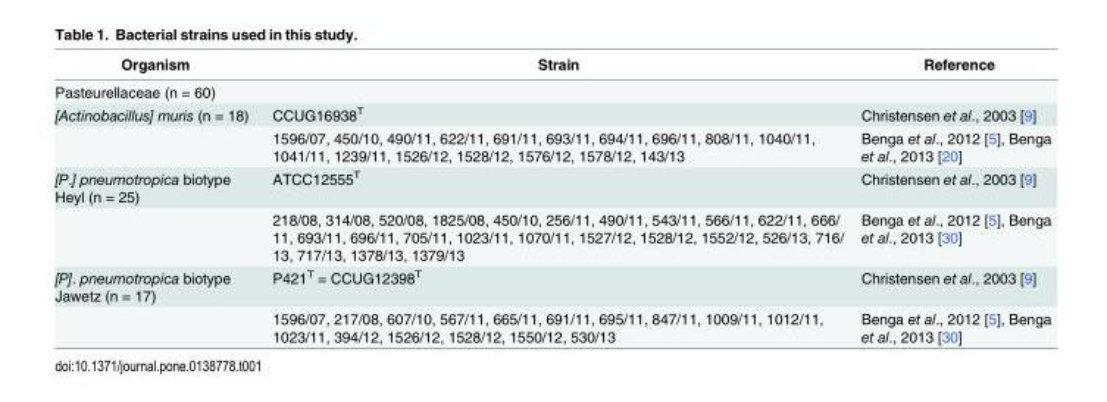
<table><thead><tr><td>Organism</td><td>Strain</td><td>Reference</td></tr></thead><tbody><tr><td colspan="3">Pasteurellaceae (n = 60)</td></tr><tr><td rowspan="2">[Actinobacillus] muris (n = 18)</td><td>CCUG16938<sup>T</sup></td><td>Christensen et al., 2003 [9]</td></tr><tr><td>1596/07, 450/10, 490/11, 622/11, 691/11, 693/11, 694/11, 696/11, 808/11, 1040/11, 1041/11, 1239/11, 1526/12, 1528/12, 1576/12, 1578/12, 143/13</td><td>Benga et al., 2012 [5], Benga et al., 2013 [20]</td></tr><tr><td rowspan="2">[P.] pneumotropica biotype Heyl (n = 25)</td><td>ATCC12555<sup>T</sup></td><td>Christensen et al., 2003 [9]</td></tr><tr><td>218/08, 314/08, 520/08, 1825/08, 450/10, 256/11, 490/11, 543/11, 566/11, 622/11, 666/ 11, 693/11, 696/11, 705/11, 1023/11, 1070/11, 1527/12, 1528/12, 1552/12, 526/13, 716/ 13, 717/13, 1378/13, 1379/13</td><td>Benga et al., 2012 [5], Benga et al., 2013 [30]</td></tr><tr><td rowspan="2">[P]. pneumotropica biotype Jawetz (n = 17)</td><td>P421<sup>T</sup> = CCUG12398<sup>T</sup></td><td>Christensen et al., 2003 [9]</td></tr><tr><td>1596/07, 217/08, 607/10, 567/11, 665/11, 691/11, 695/11, 847/11, 1009/11, 1012/11, 1023/11, 394/12, 1526/12, 1528/12, 1550/12, 530/13</td><td>Benga et al., 2012 [5], Benga et al., 2013 [30]</td></tr></tbody></table>